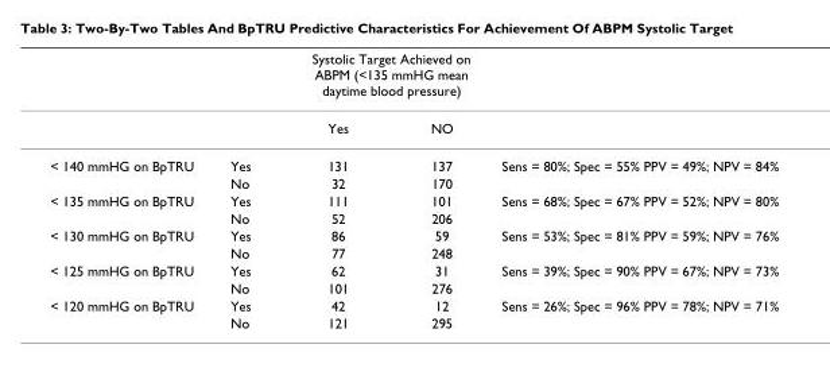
<table><thead><tr><td rowspan="2"></td><td rowspan="2"></td><td colspan="2">Systolic Target Achieved on ABPM (&lt;135 mmHG mean daytime blood pressure)</td><td rowspan="2"></td></tr><tr><td>Yes</td><td>NO</td></tr></thead><tbody><tr><td rowspan="2">&lt; 140 mmHG on BpTRU</td><td>Yes</td><td>131</td><td>137</td><td>Sens = 80%; Spec = 55% PPV = 49%; NPV = 84%</td></tr><tr><td>No</td><td>32</td><td>170</td><td></td></tr><tr><td rowspan="2">&lt; 135 mmHG on BpTRU</td><td>Yes</td><td>111</td><td>101</td><td>Sens = 68%; Spec = 67% PPV = 52%; NPV = 80%</td></tr><tr><td>No</td><td>52</td><td>206</td><td></td></tr><tr><td rowspan="2">&lt; 130 mmHG on BpTRU</td><td>Yes</td><td>86</td><td>59</td><td>Sens = 53%; Spec = 81% PPV = 59%; NPV = 76%</td></tr><tr><td>No</td><td>77</td><td>248</td><td></td></tr><tr><td rowspan="2">&lt; 125 mmHG on BpTRU</td><td>Yes</td><td>62</td><td>31</td><td>Sens = 39%; Spec = 90% PPV = 67%; NPV = 73%</td></tr><tr><td>No</td><td>101</td><td>276</td><td></td></tr><tr><td rowspan="2">&lt; 120 mmHG on BpTRU</td><td>Yes</td><td>42</td><td>12</td><td>Sens = 26%; Spec = 96% PPV = 78%; NPV = 71%</td></tr><tr><td>No</td><td>121</td><td>295</td><td></td></tr></tbody></table>